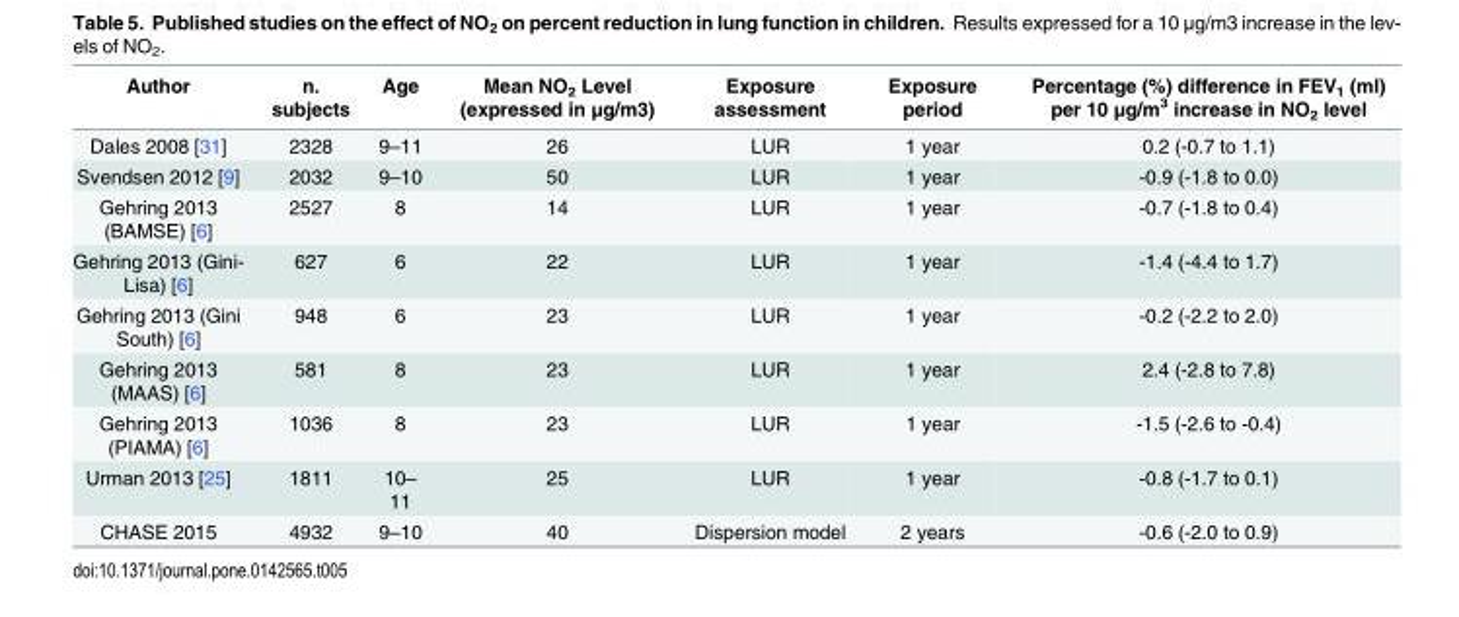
<table><thead><tr><td>Author</td><td>n. subjects</td><td>Age</td><td>Mean NO<sub>2</sub> Level (expressed in μg/m3)</td><td>Exposure assessment</td><td>Exposure period</td><td>Percentage (%) difference in FEV<sub>1</sub> (ml) per 10 μg/m<sup>3</sup> increase in NO<sub>2</sub> level</td></tr></thead><tbody><tr><td>Dales 2008 [31]</td><td>2328</td><td>9–11</td><td>26</td><td>LUR</td><td>1 year</td><td>0.2 (-0.7 to 1.1)</td></tr><tr><td>Svendsen 2012 [9]</td><td>2032</td><td>9–10</td><td>50</td><td>LUR</td><td>1 year</td><td>-0.9 (-1.8 to 0.0)</td></tr><tr><td>Gehring 2013 (BAMSE) [6]</td><td>2527</td><td>8</td><td>14</td><td>LUR</td><td>1 year</td><td>-0.7 (-1.8 to 0.4)</td></tr><tr><td>Gehring 2013 (Gini- Lisa) [6]</td><td>627</td><td>6</td><td>22</td><td>LUR</td><td>1 year</td><td>-1.4 (-4.4 to 1.7)</td></tr><tr><td>Gehring 2013 (Gini South) [6]</td><td>948</td><td>6</td><td>23</td><td>LUR</td><td>1 year</td><td>-0.2 (-2.2 to 2.0)</td></tr><tr><td>Gehring 2013 (MAAS) [6]</td><td>581</td><td>8</td><td>23</td><td>LUR</td><td>1 year</td><td>2.4 (-2.8 to 7.8)</td></tr><tr><td>Gehring 2013 (PIAMA) [6]</td><td>1036</td><td>8</td><td>23</td><td>LUR</td><td>1 year</td><td>-1.5 (-2.6 to -0.4)</td></tr><tr><td>Urman 2013 [25]</td><td>1811</td><td>10– 11</td><td>25</td><td>LUR</td><td>1 year</td><td>-0.8 (-1.7 to 0.1)</td></tr><tr><td>CHASE 2015</td><td>4932</td><td>9–10</td><td>40</td><td>Dispersion model</td><td>2 years</td><td>-0.6 (-2.0 to 0.9)</td></tr></tbody></table>